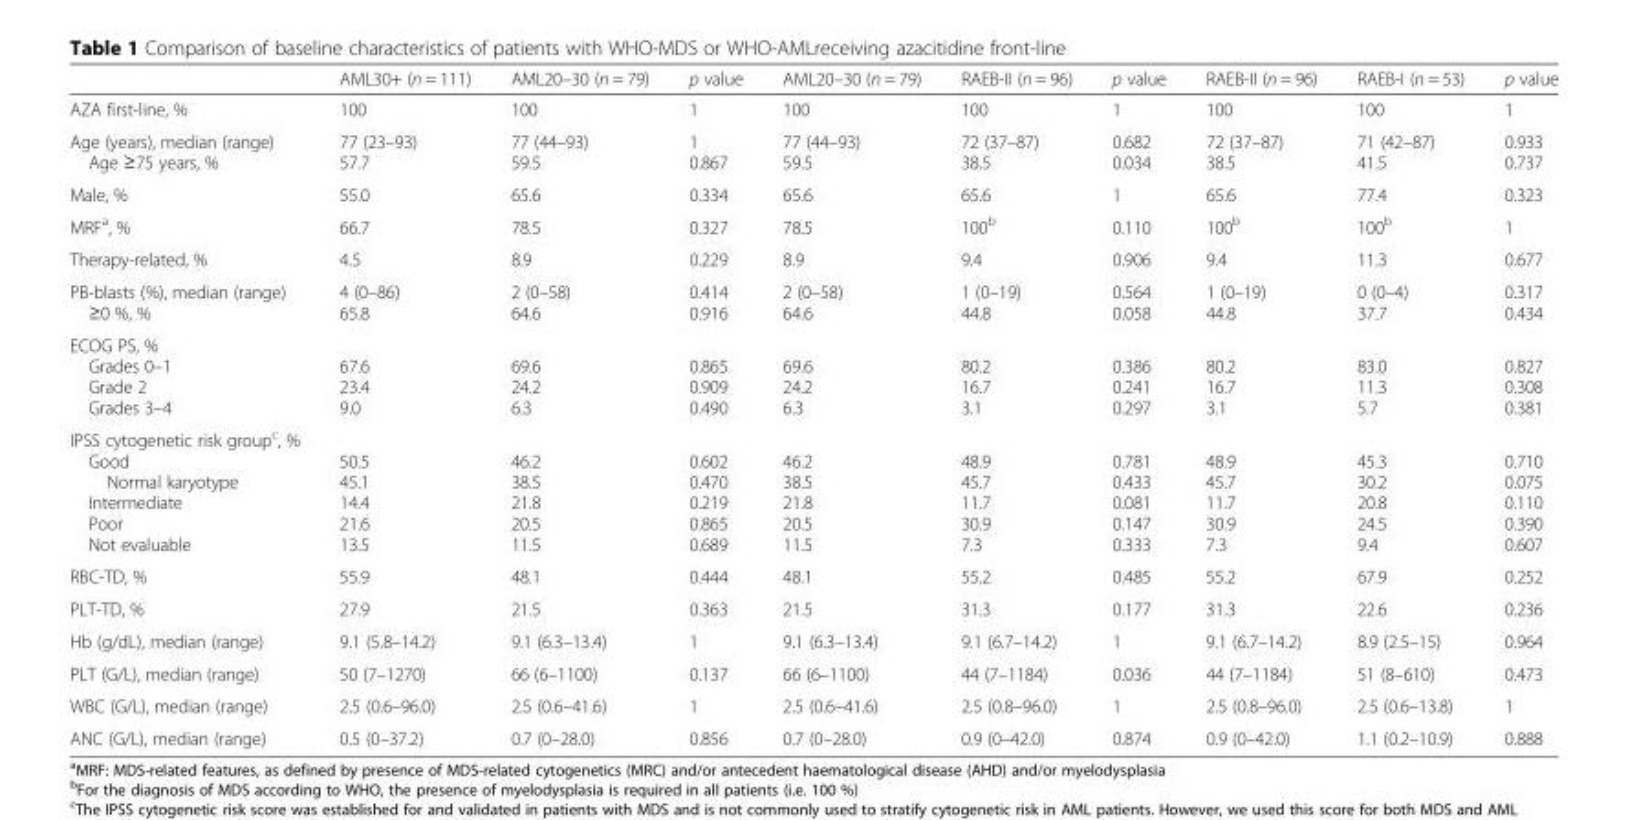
<table><thead><tr><td></td><td>AML30+ (n = 111)</td><td>AML20–30 (n = 79)</td><td>p value</td><td>AML20–30 (n = 79)</td><td>RAEB-II (n = 96)</td><td>p value</td><td>RAEB-II (n = 96)</td><td>RAEB-I (n = 53)</td><td>p value</td></tr></thead><tbody><tr><td>AZA first-line, %</td><td>100</td><td>100</td><td>1</td><td>100</td><td>100</td><td>1</td><td>100</td><td>100</td><td>1</td></tr><tr><td>Age (years), median (range) Age ≥75 years, %</td><td>77 (23–93) 57.7</td><td>77 (44–93) 59.5</td><td>1 0.867</td><td>77 (44–93) 59.5</td><td>72 (37–87) 38.5</td><td>0.682 0.034</td><td>72 (37–87) 38.5</td><td>71 (42–87) 41.5</td><td>0.933 0.737</td></tr><tr><td>Male, %</td><td>55.0</td><td>65.6</td><td>0.334</td><td>65.6</td><td>65.6</td><td>1</td><td>65.6</td><td>77.4</td><td>0.323</td></tr><tr><td>MRF<sup>a</sup>, %</td><td>66.7</td><td>78.5</td><td>0.327</td><td>78.5</td><td>100<sup>b</sup></td><td>0.110</td><td>100<sup>b</sup></td><td>100<sup>b</sup></td><td>1</td></tr><tr><td>Therapy-related, %</td><td>4.5</td><td>8.9</td><td>0.229</td><td>8.9</td><td>9.4</td><td>0.906</td><td>9.4</td><td>11.3</td><td>0.677</td></tr><tr><td>PB-blasts (%), median (range) ≥0 %, %</td><td>4 (0–86) 65.8</td><td>2 (0–58) 64.6</td><td>0.414 0.916</td><td>2 (0–58) 64.6</td><td>1 (0–19) 44.8</td><td>0.564 0.058</td><td>1 (0–19) 44.8</td><td>0 (0–4) 37.7</td><td>0.317 0.434</td></tr><tr><td>ECOG PS, % Grades 0–1 Grade 2 Grades 3–4</td><td>67.6 23.4 9.0</td><td>69.6 24.2 6.3</td><td>0.865 0.909 0.490</td><td>69.6 24.2 6.3</td><td>80.2 16.7 3.1</td><td>0.386 0.241 0.297</td><td>80.2 16.7 3.1</td><td>83.0 11.3 5.7</td><td>0.827 0.308 0.381</td></tr><tr><td>IPSS cytogenetic risk group<sup>c</sup>, % Good Normal karyotype Intermediate Poor Not evaluable</td><td>50.5 45.1 14.4 21.6 13.5</td><td>46.2 38.5 21.8 20.5 11.5</td><td>0.602 0.470 0.219 0.865 0.689</td><td>46.2 38.5 21.8 20.5 11.5</td><td>48.9 45.7 11.7 30.9 7.3</td><td>0.781 0.433 0.081 0.147 0.333</td><td>48.9 45.7 11.7 30.9 7.3</td><td>45.3 30.2 20.8 24.5 9.4</td><td>0.710 0.075 0.110 0.390 0.607</td></tr><tr><td>RBC-TD, %</td><td>55.9</td><td>48.1</td><td>0.444</td><td>48.1</td><td>55.2</td><td>0.485</td><td>55.2</td><td>67.9</td><td>0.252</td></tr><tr><td>PLT-TD, %</td><td>27.9</td><td>21.5</td><td>0.363</td><td>21.5</td><td>31.3</td><td>0.177</td><td>31.3</td><td>22.6</td><td>0.236</td></tr><tr><td>Hb (g/dL), median (range)</td><td>9.1 (5.8–14.2)</td><td>9.1 (6.3–13.4)</td><td>1</td><td>9.1 (6.3–13.4)</td><td>9.1 (6.7–14.2)</td><td>1</td><td>9.1 (6.7–14.2)</td><td>8.9 (2.5–15)</td><td>0.964</td></tr><tr><td>PLT (G/L), median (range)</td><td>50 (7–1270)</td><td>66 (6–1100)</td><td>0.137</td><td>66 (6–1100)</td><td>44 (7–1184)</td><td>0.036</td><td>44 (7–1184)</td><td>51 (8–610)</td><td>0.473</td></tr><tr><td>WBC (G/L), median (range)</td><td>2.5 (0.6–96.0)</td><td>2.5 (0.6–41.6)</td><td>1</td><td>2.5 (0.6–41.6)</td><td>2.5 (0.8–96.0)</td><td>1</td><td>2.5 (0.8–96.0)</td><td>2.5 (0.6–13.8)</td><td>1</td></tr><tr><td>ANC (G/L), median (range)</td><td>0.5 (0–37.2)</td><td>0.7 (0–28.0)</td><td>0.856</td><td>0.7 (0–28.0)</td><td>0.9 (0–42.0)</td><td>0.874</td><td>0.9 (0–42.0)</td><td>1.1 (0.2–10.9)</td><td>0.888</td></tr></tbody></table>